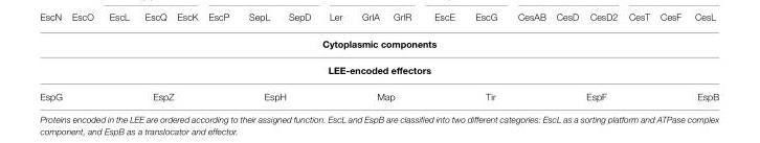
<table><thead><tr><td rowspan="2" colspan="7">Cytoplasmic components LEE-encoded effectors</td></tr><tr></tr><tr><td>EspG</td><td>EspZ</td><td>EspH</td><td>Map</td><td>Tir</td><td>EspF</td><td>EspB</td></tr></thead><tbody></tbody></table>